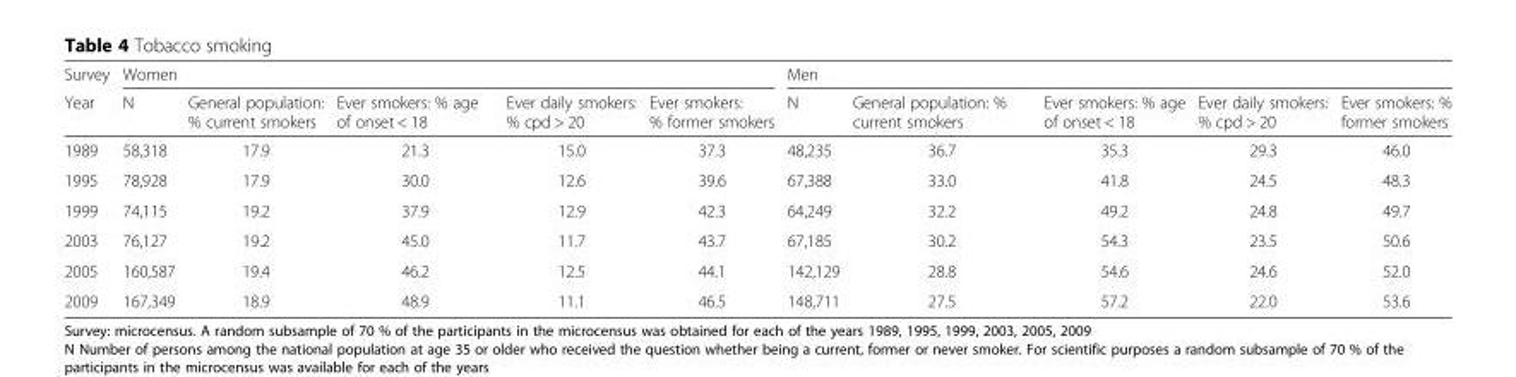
<table><thead><tr><td rowspan="2">Survey Year</td><td colspan="5">Women</td><td colspan="5">Men</td></tr><tr><td>N</td><td>General population: % current smokers</td><td>Ever smokers: % age of onset &lt; 18</td><td>Ever daily smokers: % cpd &gt; 20</td><td>Ever smokers: % former smokers</td><td>N</td><td>General population: % current smokers</td><td>Ever smokers: % age of onset &lt; 18</td><td>Ever daily smokers: % cpd &gt; 20</td><td>Ever smokers: % former smokers</td></tr></thead><tbody><tr><td>1989</td><td>58,318</td><td>17.9</td><td>21.3</td><td>15.0</td><td>37.3</td><td>48,235</td><td>36.7</td><td>35.3</td><td>29.3</td><td>46.0</td></tr><tr><td>1995</td><td>78,928</td><td>17.9</td><td>30.0</td><td>12.6</td><td>39.6</td><td>67,388</td><td>33.0</td><td>41.8</td><td>24.5</td><td>48.3</td></tr><tr><td>1999</td><td>74,115</td><td>19.2</td><td>37.9</td><td>12.9</td><td>42.3</td><td>64,249</td><td>32.2</td><td>49.2</td><td>24.8</td><td>49.7</td></tr><tr><td>2003</td><td>76,127</td><td>19.2</td><td>45.0</td><td>11.7</td><td>43.7</td><td>67,185</td><td>30.2</td><td>54.3</td><td>23.5</td><td>50.6</td></tr><tr><td>2005</td><td>160,587</td><td>19.4</td><td>46.2</td><td>12.5</td><td>44.1</td><td>142,129</td><td>28.8</td><td>54.6</td><td>24.6</td><td>52.0</td></tr><tr><td>2009</td><td>167,349</td><td>18.9</td><td>48.9</td><td>11.1</td><td>46.5</td><td>148,711</td><td>27.5</td><td>57.2</td><td>22.0</td><td>53.6</td></tr></tbody></table>